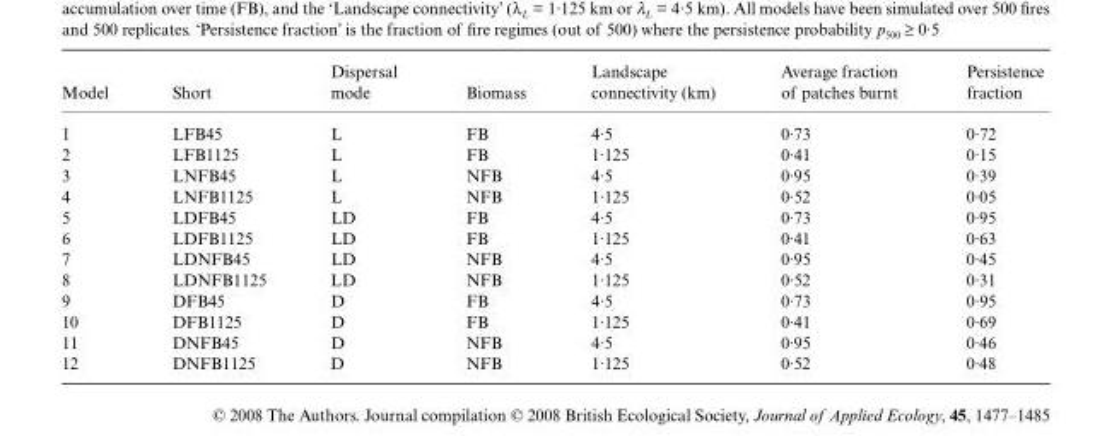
<table><thead><tr><td>Model</td><td>Short</td><td>Dispersal mode</td><td>Biomass</td><td>Landscape connectivity (km)</td><td>Average fraction of patches burnt</td><td>Persistence fraction</td></tr></thead><tbody><tr><td>1</td><td>LFB45</td><td>L</td><td>FB</td><td>4·5</td><td>0·73</td><td>0·72</td></tr><tr><td>2</td><td>LFB1125</td><td>L</td><td>FB</td><td>1·125</td><td>0·41</td><td>0·15</td></tr><tr><td>3</td><td>LNFB45</td><td>L</td><td>NFB</td><td>4·5</td><td>0·95</td><td>0·39</td></tr><tr><td>4</td><td>LNFB1125</td><td>L</td><td>NFB</td><td>1·125</td><td>0·52</td><td>0·05</td></tr><tr><td>5</td><td>LDFB45</td><td>LD</td><td>FB</td><td>4·5</td><td>0·73</td><td>0·95</td></tr><tr><td>6</td><td>LDFB1125</td><td>LD</td><td>FB</td><td>1·125</td><td>0·41</td><td>0·63</td></tr><tr><td>7</td><td>LDNFB45</td><td>LD</td><td>NFB</td><td>4·5</td><td>0·95</td><td>0·45</td></tr><tr><td>8</td><td>LDNFB1125</td><td>LD</td><td>NFB</td><td>1·125</td><td>0·52</td><td>0·31</td></tr><tr><td>9</td><td>DFB45</td><td>D</td><td>FB</td><td>4·5</td><td>0·73</td><td>0·95</td></tr><tr><td>10</td><td>DFB1125</td><td>D</td><td>FB</td><td>1·125</td><td>0·41</td><td>0·69</td></tr><tr><td>11</td><td>DNFB45</td><td>D</td><td>NFB</td><td>4·5</td><td>0·95</td><td>0·46</td></tr><tr><td>12</td><td>DNFB1125</td><td>D</td><td>NFB</td><td>1·125</td><td>0·52</td><td>0·48</td></tr></tbody></table>